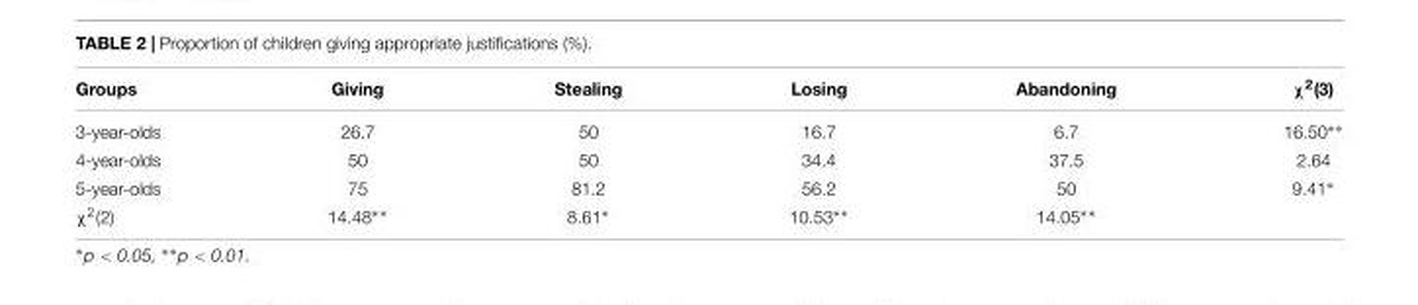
<table><thead><tr><td>Groups</td><td>Giving</td><td>Stealing</td><td>Losing</td><td>Abandoning</td><td>χ<sup>2</sup>(3)</td></tr></thead><tbody><tr><td>3-year-olds</td><td>26.7</td><td>50</td><td>16.7</td><td>6.7</td><td>16.50∗∗</td></tr><tr><td>4-year-olds</td><td>50</td><td>50</td><td>34.4</td><td>37.5</td><td>2.64</td></tr><tr><td>5-year-olds</td><td>75</td><td>81.2</td><td>56.2</td><td>50</td><td>9.41∗</td></tr><tr><td>χ<sup>2</sup>(2)</td><td>14.48∗∗</td><td>8.61∗</td><td>10.53∗∗</td><td>14.05∗∗</td><td></td></tr></tbody></table>